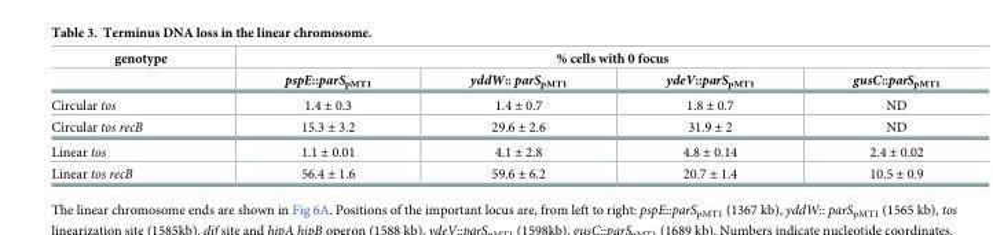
<table><thead><tr><td rowspan="2">genotype</td><td colspan="4">% cells with 0 focus</td></tr><tr><td>pspE::parS<sub>pMT1</sub></td><td>yddW:: parS<sub>pMT1</sub></td><td>ydeV::parS<sub>pMT1</sub></td><td>gusC::parS<sub>pMT1</sub></td></tr></thead><tbody><tr><td>Circular tos</td><td>1.4 ± 0.3</td><td>1.4 ± 0.7</td><td>1.8 ± 0.7</td><td>ND</td></tr><tr><td>Circular tos recB</td><td>15.3 ± 3.2</td><td>29.6 ± 2.6</td><td>31.9 ± 2</td><td>ND</td></tr><tr><td>Linear tos</td><td>1.1 ± 0.01</td><td>4.1 ± 2.8</td><td>4.8 ± 0.14</td><td>2.4 ± 0.02</td></tr><tr><td>Linear tos recB</td><td>56.4 ± 1.6</td><td>59.6 ± 6.2</td><td>20.7 ± 1.4</td><td>10.5 ± 0.9</td></tr></tbody></table>